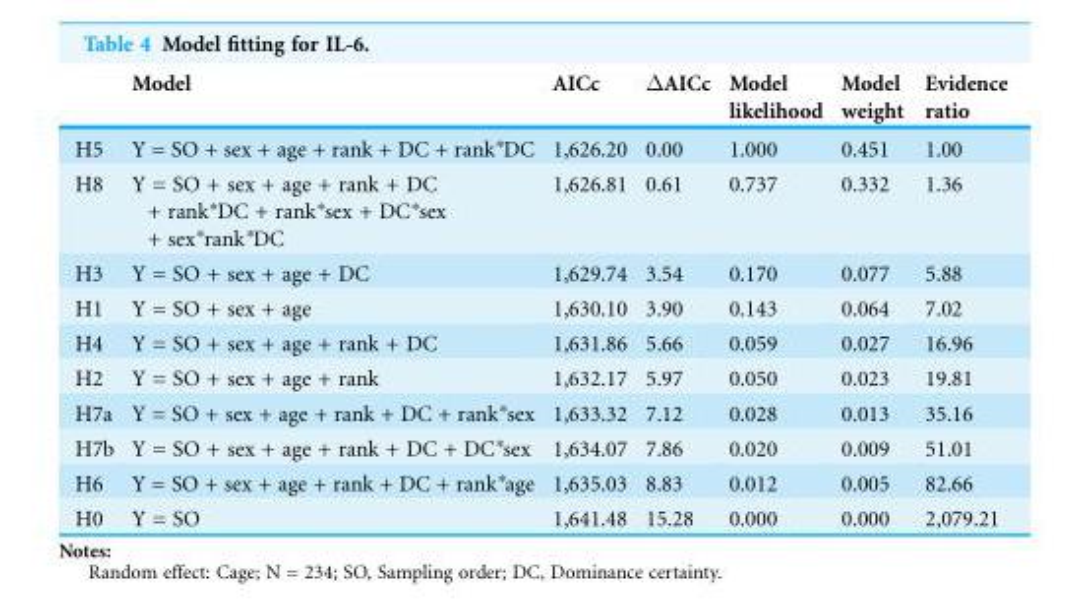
<table><thead><tr><td></td><td>Model</td><td>AICc</td><td>ΔAICc</td><td>Model likelihood</td><td>Model weight</td><td>Evidence ratio</td></tr></thead><tbody><tr><td>H5</td><td>Y = SO + sex + age + rank + DC + rank*DC</td><td>1,626.20</td><td>0.00</td><td>1.000</td><td>0.451</td><td>1.00</td></tr><tr><td>H8</td><td>Y = SO + sex + age + rank + DC + rank*DC + rank*sex + DC*sex + sex*rank*DC</td><td>1,626.81</td><td>0.61</td><td>0.737</td><td>0.332</td><td>1.36</td></tr><tr><td>H3</td><td>Y = SO + sex + age + DC</td><td>1,629.74</td><td>3.54</td><td>0.170</td><td>0.077</td><td>5.88</td></tr><tr><td>H1</td><td>Y = SO + sex + age</td><td>1,630.10</td><td>3.90</td><td>0.143</td><td>0.064</td><td>7.02</td></tr><tr><td>H4</td><td>Y = SO + sex + age + rank + DC</td><td>1,631.86</td><td>5.66</td><td>0.059</td><td>0.027</td><td>16.96</td></tr><tr><td>H2</td><td>Y = SO + sex + age + rank</td><td>1,632.17</td><td>5.97</td><td>0.050</td><td>0.023</td><td>19.81</td></tr><tr><td>H7a</td><td>Y = SO + sex + age + rank + DC + rank*sex</td><td>1,633.32</td><td>7.12</td><td>0.028</td><td>0.013</td><td>35.16</td></tr><tr><td>H7b</td><td>Y = SO + sex + age + rank + DC + DC*sex</td><td>1,634.07</td><td>7.86</td><td>0.020</td><td>0.009</td><td>51.01</td></tr><tr><td>H6</td><td>Y = SO + sex + age + rank + DC + rank*age</td><td>1,635.03</td><td>8.83</td><td>0.012</td><td>0.005</td><td>82.66</td></tr><tr><td>H0</td><td>Y = SO</td><td>1,641.48</td><td>15.28</td><td>0.000</td><td>0.000</td><td>2,079.21</td></tr></tbody></table>